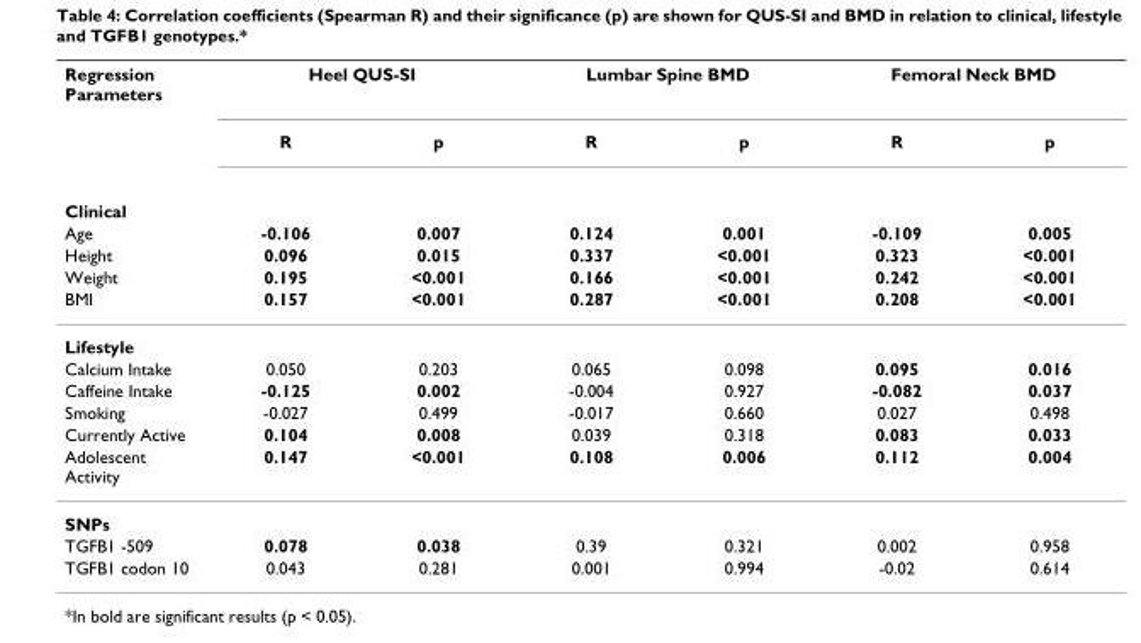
<table><thead><tr><td rowspan="7">Regression Parameters Clinical Age Height Weight BMI</td><td colspan="2">Heel QUS-SI</td><td colspan="2">Lumbar Spine BMD</td><td colspan="2">Femoral Neck BMD</td></tr><tr><td rowspan="6">R -0.106 0.096 0.195 0.157</td><td rowspan="6">p 0.007 0.015 &lt;0.001 &lt;0.001</td><td rowspan="6">R 0.124 0.337 0.166 0.287</td><td rowspan="6">p 0.001 &lt;0.001 &lt;0.001 &lt;0.001</td><td rowspan="6">R -0.109 0.323 0.242 0.208</td><td rowspan="6">p 0.005 &lt;0.001 &lt;0.001 &lt;0.001</td></tr><tr></tr><tr></tr><tr></tr><tr></tr><tr></tr></thead><tbody><tr><td colspan="7">Lifestyle</td></tr><tr><td>Calcium Intake</td><td>0.050</td><td>0.203</td><td>0.065</td><td>0.098</td><td>0.095</td><td>0.016</td></tr><tr><td>Caffeine Intake</td><td>-0.125</td><td>0.002</td><td>-0.004</td><td>0.927</td><td>-0.082</td><td>0.037</td></tr><tr><td>Smoking</td><td>-0.027</td><td>0.499</td><td>-0.017</td><td>0.660</td><td>0.027</td><td>0.498</td></tr><tr><td>Currently Active</td><td>0.104</td><td>0.008</td><td>0.039</td><td>0.318</td><td>0.083</td><td>0.033</td></tr><tr><td>Adolescent Activity</td><td>0.147</td><td>&lt;0.001</td><td>0.108</td><td>0.006</td><td>0.112</td><td>0.004</td></tr><tr><td colspan="7">SNPs</td></tr><tr><td>TGFB1 -509</td><td>0.078</td><td>0.038</td><td>0.39</td><td>0.321</td><td>0.002</td><td>0.958</td></tr><tr><td>TGFB1 codon 10</td><td>0.043</td><td>0.281</td><td>0.001</td><td>0.994</td><td>-0.02</td><td>0.614</td></tr></tbody></table>